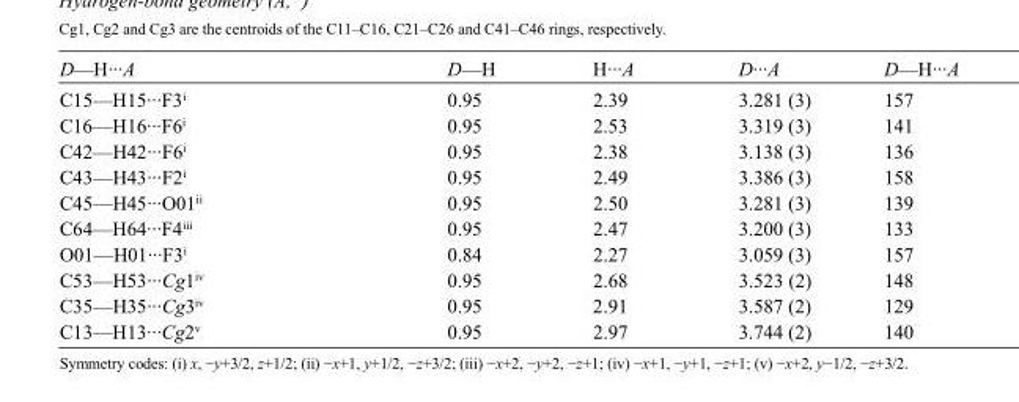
<table><tbody><tr><td>D—H···A</td><td>D—H</td><td>H···A</td><td>D···A</td><td>D—H···A</td></tr><tr><td>C15—H15···F3<sup>i</sup></td><td>0.95</td><td>2.39</td><td>3.281 (3)</td><td>157</td></tr><tr><td>C16—H16···F6<sup>i</sup></td><td>0.95</td><td>2.53</td><td>3.319 (3)</td><td>141</td></tr><tr><td>C42—H42···F6<sup>i</sup></td><td>0.95</td><td>2.38</td><td>3.138 (3)</td><td>136</td></tr><tr><td>C43—H43···F2<sup>i</sup></td><td>0.95</td><td>2.49</td><td>3.386 (3)</td><td>158</td></tr><tr><td>C45—H45···O01<sup>ii</sup></td><td>0.95</td><td>2.50</td><td>3.281 (3)</td><td>139</td></tr><tr><td>C64—H64···F4<sup>iii</sup></td><td>0.95</td><td>2.47</td><td>3.200 (3)</td><td>133</td></tr><tr><td>O01—H01···F3<sup>i</sup></td><td>0.84</td><td>2.27</td><td>3.059 (3)</td><td>157</td></tr><tr><td>C53—H53···Cg1<sup>iv</sup></td><td>0.95</td><td>2.68</td><td>3.523 (2)</td><td>148</td></tr><tr><td>C35—H35···Cg3<sup>iv</sup></td><td>0.95</td><td>2.91</td><td>3.587 (2)</td><td>129</td></tr><tr><td>C13—H13···Cg2<sup>v</sup></td><td>0.95</td><td>2.97</td><td>3.744 (2)</td><td>140</td></tr></tbody></table>